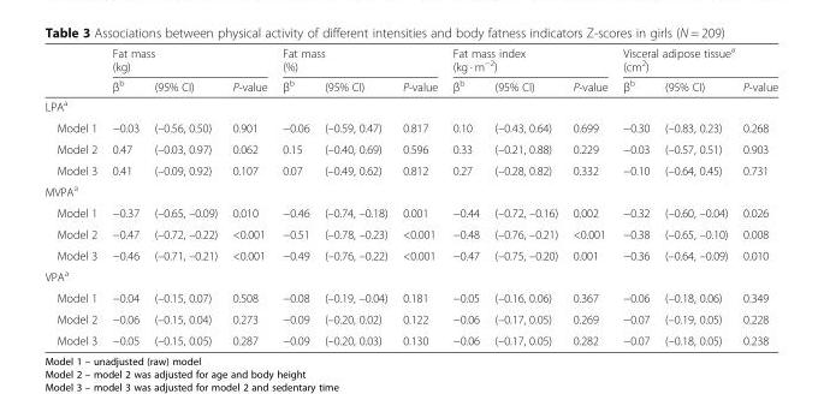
<table><thead><tr><td rowspan="2"></td><td colspan="3">Fat mass (kg)</td><td colspan="3">Fat mass (%)</td><td colspan="3">Fat mass index (kg · m<sup>−2</sup>)</td><td colspan="3">Visceral adipose tissue<sup>a</sup> (cm<sup>2</sup>)</td></tr><tr><td>β<sup>b</sup></td><td>(95% CI)</td><td>P-value</td><td>β<sup>b</sup></td><td>(95% CI)</td><td>P-value</td><td>β<sup>b</sup></td><td>(95% CI)</td><td>P-value</td><td>β<sup>b</sup></td><td>(95% CI)</td><td>P-value</td></tr></thead><tbody><tr><td colspan="13">LPA<sup>a</sup></td></tr><tr><td>Model 1</td><td>−0.03</td><td>(–0.56, 0.50)</td><td>0.901</td><td>−0.06</td><td>(–0.59, 0.47)</td><td>0.817</td><td>0.10</td><td>(–0.43, 0.64)</td><td>0.699</td><td>−0.30</td><td>(–0.83, 0.23)</td><td>0.268</td></tr><tr><td>Model 2</td><td>0.47</td><td>(–0.03, 0.97)</td><td>0.062</td><td>0.15</td><td>(–0.40, 0.69)</td><td>0.596</td><td>0.33</td><td>(–0.21, 0.88)</td><td>0.229</td><td>−0.03</td><td>(–0.57, 0.51)</td><td>0.903</td></tr><tr><td>Model 3</td><td>0.41</td><td>(–0.09, 0.92)</td><td>0.107</td><td>0.07</td><td>(–0.49, 0.62)</td><td>0.812</td><td>0.27</td><td>(–0.28, 0.82)</td><td>0.332</td><td>−0.10</td><td>(–0.64, 0.45)</td><td>0.731</td></tr><tr><td colspan="13">MVPA<sup>a</sup></td></tr><tr><td>Model 1</td><td>−0.37</td><td>(–0.65, –0.09)</td><td>0.010</td><td>−0.46</td><td>(–0.74, –0.18)</td><td>0.001</td><td>−0.44</td><td>(–0.72, –0.16)</td><td>0.002</td><td>−0.32</td><td>(–0.60, –0.04)</td><td>0.026</td></tr><tr><td>Model 2</td><td>−0.47</td><td>(–0.72, –0.22)</td><td>&lt;0.001</td><td>−0.51</td><td>(–0.78, –0.23)</td><td>&lt;0.001</td><td>−0.48</td><td>(–0.76, –0.21)</td><td>&lt;0.001</td><td>−0.38</td><td>(–0.65, –0.10)</td><td>0.008</td></tr><tr><td>Model 3</td><td>−0.46</td><td>(–0.71, –0.21)</td><td>&lt;0.001</td><td>−0.49</td><td>(–0.76, –0.22)</td><td>&lt;0.001</td><td>−0.47</td><td>(–0.75, –0.20)</td><td>0.001</td><td>−0.36</td><td>(–0.64, –0.09)</td><td>0.010</td></tr><tr><td colspan="13">VPA<sup>a</sup></td></tr><tr><td>Model 1</td><td>−0.04</td><td>(–0.15, 0.07)</td><td>0.508</td><td>−0.08</td><td>(–0.19, –0.04)</td><td>0.181</td><td>−0.05</td><td>(–0.16, 0.06)</td><td>0.367</td><td>−0.06</td><td>(–0.18, 0.06)</td><td>0.349</td></tr><tr><td>Model 2</td><td>−0.06</td><td>(–0.15, 0.04)</td><td>0.273</td><td>−0.09</td><td>(–0.20, 0.02)</td><td>0.122</td><td>−0.06</td><td>(–0.17, 0.05)</td><td>0.269</td><td>−0.07</td><td>(–0.19, 0.05)</td><td>0.228</td></tr><tr><td>Model 3</td><td>−0.05</td><td>(–0.15, 0.05)</td><td>0.287</td><td>−0.09</td><td>(–0.20, 0.03)</td><td>0.130</td><td>−0.06</td><td>(–0.17, 0.05)</td><td>0.282</td><td>−0.07</td><td>(–0.18, 0.05)</td><td>0.238</td></tr></tbody></table>